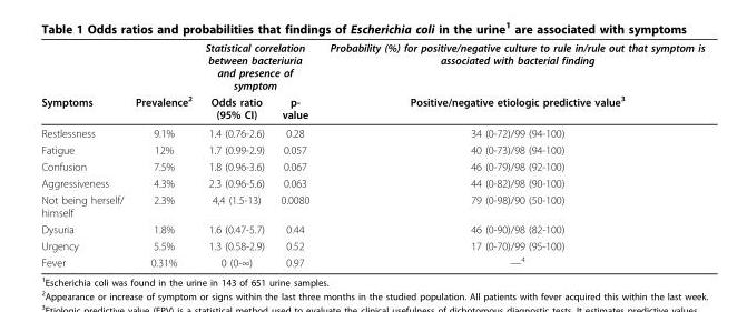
<table><thead><tr><td rowspan="2">Symptoms</td><td rowspan="2">Prevalence<sup>2</sup></td><td colspan="2">Statistical correlation between bacteriuria and presence of symptom</td><td rowspan="2">Probability (%) for positive/negative culture to rule in/rule out that symptom is associated with bacterial finding Positive/negative etiologic predictive value<sup>3</sup></td></tr><tr><td>Odds ratio (95% CI)</td><td>p- value</td></tr></thead><tbody><tr><td>Restlessness</td><td>9.1%</td><td>1.4 (0.76-2.6)</td><td>0.28</td><td>34 (0-72)/99 (94-100)</td></tr><tr><td>Fatigue</td><td>12%</td><td>1.7 (0.99-2.9)</td><td>0.057</td><td>40 (0-73)/98 (94-100)</td></tr><tr><td>Confusion</td><td>7.5%</td><td>1.8 (0.96-3.6)</td><td>0.067</td><td>46 (0-79)/98 (92-100)</td></tr><tr><td>Aggressiveness</td><td>4.3%</td><td>2.3 (0.96-5.6)</td><td>0.063</td><td>44 (0-82)/98 (90-100)</td></tr><tr><td>Not being herself/ himself</td><td>2.3%</td><td>4,4 (1.5-13)</td><td>0.0080</td><td>79 (0-98)/90 (50-100)</td></tr><tr><td>Dysuria</td><td>1.8%</td><td>1.6 (0.47-5.7)</td><td>0.44</td><td>46 (0-90)/98 (82-100)</td></tr><tr><td>Urgency</td><td>5.5%</td><td>1.3 (0.58-2.9)</td><td>0.52</td><td>17 (0-70)/99 (95-100)</td></tr><tr><td>Fever</td><td>0.31%</td><td>0 (0-∞)</td><td>0.97</td><td>—4</td></tr></tbody></table>